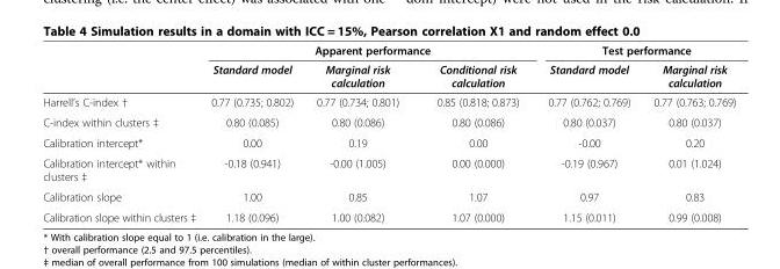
<table><thead><tr><td rowspan="2"></td><td colspan="3">Apparent performance</td><td colspan="2">Test performance</td></tr><tr><td>Standard model</td><td>Marginal risk calculation</td><td>Conditional risk calculation</td><td>Standard model</td><td>Marginal risk calculation</td></tr></thead><tbody><tr><td>Harrell’s C-index †</td><td>0.77 (0.735; 0.802)</td><td>0.77 (0.734; 0.801)</td><td>0.85 (0.818; 0.873)</td><td>0.77 (0.762; 0.769)</td><td>0.77 (0.763; 0.769)</td></tr><tr><td>C-index within clusters ‡</td><td>0.80 (0.085)</td><td>0.80 (0.086)</td><td>0.80 (0.086)</td><td>0.80 (0.037)</td><td>0.80 (0.037)</td></tr><tr><td>Calibration intercept*</td><td>0.00</td><td>0.19</td><td>0.00</td><td>-0.00</td><td>0.20</td></tr><tr><td>Calibration intercept* within clusters ‡</td><td>-0.18 (0.941)</td><td>-0.00 (1.005)</td><td>0.00 (0.000)</td><td>-0.19 (0.967)</td><td>0.01 (1.024)</td></tr><tr><td>Calibration slope</td><td>1.00</td><td>0.85</td><td>1.07</td><td>0.97</td><td>0.83</td></tr><tr><td>Calibration slope within clusters ‡</td><td>1.18 (0.096)</td><td>1.00 (0.082)</td><td>1.07 (0.000)</td><td>1.15 (0.011)</td><td>0.99 (0.008)</td></tr></tbody></table>